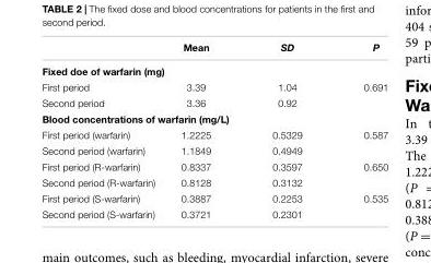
<table><thead><tr><td></td><td>Mean</td><td>SD</td><td>P</td></tr></thead><tbody><tr><td colspan="4">Fixed doe of warfarin (mg)</td></tr><tr><td>First period</td><td>3.39</td><td>1.04</td><td>0.691</td></tr><tr><td>Second period</td><td>3.36</td><td>0.92</td><td></td></tr><tr><td colspan="4">Blood concentrations of warfarin (mg/L)</td></tr><tr><td>First period (warfarin)</td><td>1.2225</td><td>0.5329</td><td>0.587</td></tr><tr><td>Second period (warfarin)</td><td>1.1849</td><td>0.4949</td><td></td></tr><tr><td>First period (R-warfarin)</td><td>0.8337</td><td>0.3597</td><td>0.650</td></tr><tr><td>Second period (R-warfarin)</td><td>0.8128</td><td>0.3132</td><td></td></tr><tr><td>First period (S-warfarin)</td><td>0.3887</td><td>0.2253</td><td>0.535</td></tr><tr><td>Second period (S-warfarin)</td><td>0.3721</td><td>0.2301</td><td></td></tr></tbody></table>